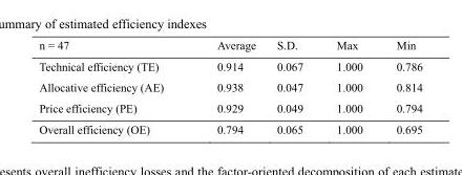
<table><thead><tr><td>n = 47</td><td>Average</td><td>S.D.</td><td>Max</td><td>Min</td></tr></thead><tbody><tr><td>Technical efficiency (TE)</td><td>0.914</td><td>0.067</td><td>1.000</td><td>0.786</td></tr><tr><td>Allocative efficiency (AE)</td><td>0.938</td><td>0.047</td><td>1.000</td><td>0.814</td></tr><tr><td>Price efficiency (PE)</td><td>0.929</td><td>0.049</td><td>1.000</td><td>0.794</td></tr><tr><td>Overall efficiency (OE)</td><td>0.794</td><td>0.065</td><td>1.000</td><td>0.695</td></tr></tbody></table>